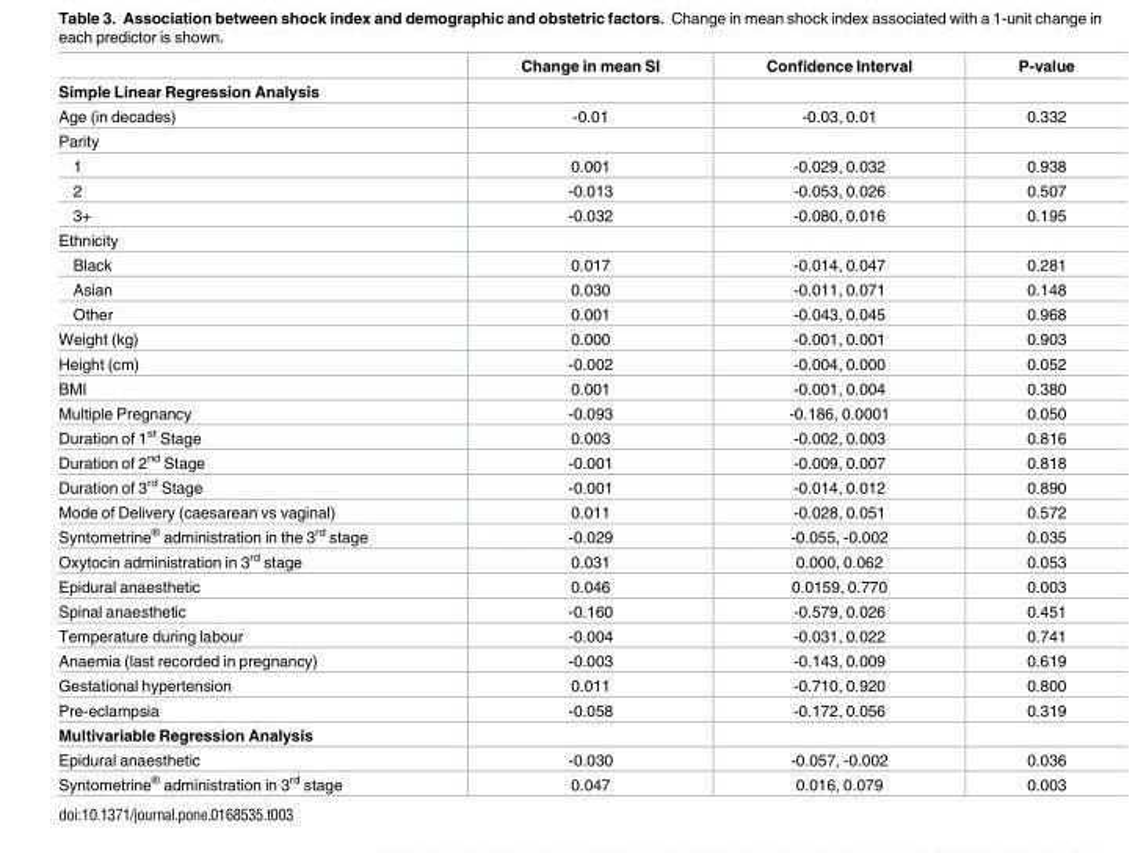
<table><thead><tr><td></td><td>Change in mean SI</td><td>Confidence Interval</td><td>P-value</td></tr></thead><tbody><tr><td colspan="4">Simple Linear Regression Analysis</td></tr><tr><td>Age (in decades)</td><td>-0.01</td><td>-0.03, 0.01</td><td>0.332</td></tr><tr><td colspan="4">Parity</td></tr><tr><td>1</td><td>0.001</td><td>-0.029, 0.032</td><td>0.938</td></tr><tr><td>2</td><td>-0.013</td><td>-0.053, 0.026</td><td>0.507</td></tr><tr><td>3+</td><td>-0.032</td><td>-0.080, 0.016</td><td>0.195</td></tr><tr><td colspan="4">Ethnicity</td></tr><tr><td>Black</td><td>0.017</td><td>-0.014, 0.047</td><td>0.281</td></tr><tr><td>Asian</td><td>0.030</td><td>-0.011, 0.071</td><td>0.148</td></tr><tr><td>Other</td><td>0.001</td><td>-0.043, 0.045</td><td>0.968</td></tr><tr><td>Weight (kg)</td><td>0.000</td><td>-0.001, 0.001</td><td>0.903</td></tr><tr><td>Height (cm)</td><td>-0.002</td><td>-0.004, 0.000</td><td>0.052</td></tr><tr><td>BMI</td><td>0.001</td><td>-0.001, 0.004</td><td>0.380</td></tr><tr><td>Multiple Pregnancy</td><td>-0.093</td><td>-0.186, 0.0001</td><td>0.050</td></tr><tr><td>Duration of 1<sup>st</sup> Stage</td><td>0.003</td><td>-0.002, 0.003</td><td>0.816</td></tr><tr><td>Duration of 2<sup>nd</sup> Stage</td><td>-0.001</td><td>-0.009, 0.007</td><td>0.818</td></tr><tr><td>Duration of 3<sup>rd</sup> Stage</td><td>-0.001</td><td>-0.014, 0.012</td><td>0.890</td></tr><tr><td>Mode of Delivery (caesarean vs vaginal)</td><td>0.011</td><td>-0.028, 0.051</td><td>0.572</td></tr><tr><td>Syntometrine<sup>®</sup> administration in the 3<sup>rd</sup> stage</td><td>-0.029</td><td>-0.055, -0.002</td><td>0.035</td></tr><tr><td>Oxytocin administration in 3<sup>rd</sup> stage</td><td>0.031</td><td>0.000, 0.062</td><td>0.053</td></tr><tr><td>Epidural anaesthetic</td><td>0.046</td><td>0.0159, 0.770</td><td>0.003</td></tr><tr><td>Spinal anaesthetic</td><td>-0.160</td><td>-0.579, 0.026</td><td>0.451</td></tr><tr><td>Temperature during labour</td><td>-0.004</td><td>-0.031, 0.022</td><td>0.741</td></tr><tr><td>Anaemia (last recorded in pregnancy)</td><td>-0.003</td><td>-0.143, 0.009</td><td>0.619</td></tr><tr><td>Gestational hypertension</td><td>0.011</td><td>-0.710, 0.920</td><td>0.800</td></tr><tr><td>Pre-eclampsia</td><td>-0.058</td><td>-0.172, 0.056</td><td>0.319</td></tr><tr><td colspan="4">Multivariable Regression Analysis</td></tr><tr><td>Epidural anaesthetic</td><td>-0.030</td><td>-0.057, -0.002</td><td>0.036</td></tr><tr><td>Syntometrine<sup>®</sup> administration in 3<sup>rd</sup> stage</td><td>0.047</td><td>0.016, 0.079</td><td>0.003</td></tr></tbody></table>